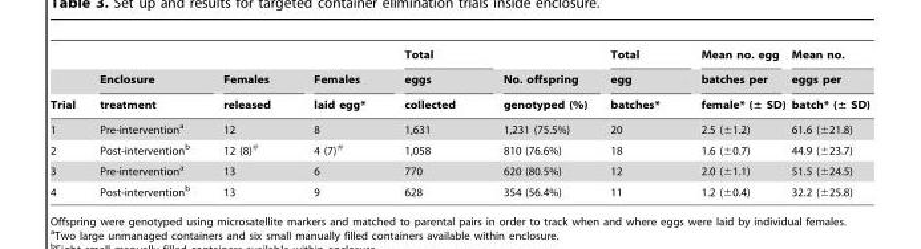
<table><thead><tr><td rowspan="3">Trial</td><td rowspan="3">Enclosure treatment</td><td rowspan="3">Females released</td><td rowspan="3">Females laid egg*</td><td rowspan="3">Total eggs collected</td><td rowspan="3">No. offspring genotyped (%)</td><td rowspan="3">Total egg batches*</td><td rowspan="3">Mean no. egg batches per female* (± SD)</td><td rowspan="3">Mean no. eggs per batch* (± SD)</td></tr><tr></tr><tr></tr></thead><tbody><tr><td>1</td><td>Pre-intervention<sup>a</sup></td><td>12</td><td>8</td><td>1,631</td><td>1,231 (75.5%)</td><td>20</td><td>2.5 (±1.2)</td><td>61.6 (±21.8)</td></tr><tr><td>2</td><td>Post-intervention<sup>b</sup></td><td>12 (8)#</td><td>4 (7)#</td><td>1,058</td><td>810 (76.6%)</td><td>18</td><td>1.6 (±0.7)</td><td>44.9 (±23.7)</td></tr><tr><td>3</td><td>Pre-intervention<sup>a</sup></td><td>13</td><td>6</td><td>770</td><td>620 (80.5%)</td><td>12</td><td>2.0 (±1.1)</td><td>51.5 (±24.5)</td></tr><tr><td>4</td><td>Post-intervention<sup>b</sup></td><td>13</td><td>9</td><td>628</td><td>354 (56.4%)</td><td>11</td><td>1.2 (±0.4)</td><td>32.2 (±25.8)</td></tr></tbody></table>